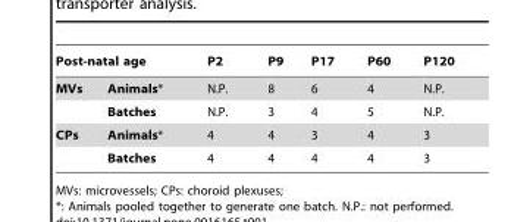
<table><thead><tr><td colspan="2">Post-natal age</td><td rowspan="2">P2 N.P.</td><td rowspan="2">P9 8</td><td rowspan="2">P17 6</td><td rowspan="2">P60 4</td><td rowspan="2">P120 N.P.</td></tr><tr><td>MVs</td><td>Animals*</td></tr></thead><tbody><tr><td></td><td>Batches</td><td>N.P.</td><td>3</td><td>4</td><td>5</td><td>N.P.</td></tr><tr><td rowspan="2">CPs</td><td>Animals*</td><td>4</td><td>4</td><td>3</td><td>4</td><td>3</td></tr><tr><td>Batches</td><td>4</td><td>4</td><td>4</td><td>4</td><td>3</td></tr></tbody></table>